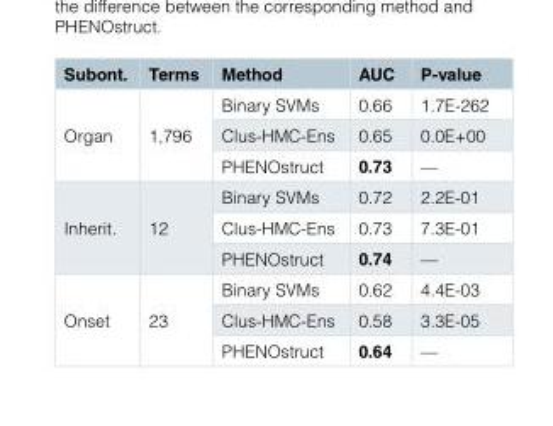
<table><thead><tr><td>Subont.</td><td>Terms</td><td>Method</td><td>AUC</td><td>P-value</td></tr></thead><tbody><tr><td rowspan="3">Organ</td><td rowspan="3">1,796</td><td>Binary SVMs</td><td>0.66</td><td>1.7E-262</td></tr><tr><td>Clus-HMC-Ens</td><td>0.65</td><td>0.0E+00</td></tr><tr><td>PHENOstruct</td><td>0.73</td><td>—</td></tr><tr><td rowspan="3">Inherit.</td><td rowspan="3">12</td><td>Binary SVMs</td><td>0.72</td><td>2.2E-01</td></tr><tr><td>Clus-HMC-Ens</td><td>0.73</td><td>7.3E-01</td></tr><tr><td>PHENOstruct</td><td>0.74</td><td>—</td></tr><tr><td rowspan="3">Onset</td><td rowspan="3">23</td><td>Binary SVMs</td><td>0.62</td><td>4.4E-03</td></tr><tr><td>Clus-HMC-Ens</td><td>0.58</td><td>3.3E-05</td></tr><tr><td>PHENOstruct</td><td>0.64</td><td>—</td></tr></tbody></table>